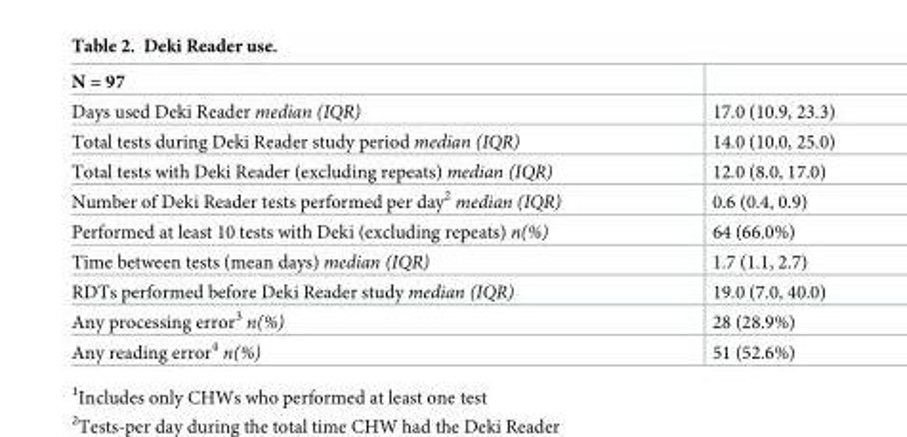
<table><thead><tr><td>N = 97</td><td></td></tr></thead><tbody><tr><td>Days used Deki Reader median (IQR)</td><td>17.0 (10.9, 23.3)</td></tr><tr><td>Total tests during Deki Reader study period median (IQR)</td><td>14.0 (10.0, 25.0)</td></tr><tr><td>Total tests with Deki Reader (excluding repeats) median (IQR)</td><td>12.0 (8.0, 17.0)</td></tr><tr><td>Number of Deki Reader tests performed per day<sup>2</sup> median (IQR)</td><td>0.6 (0.4, 0.9)</td></tr><tr><td>Performed at least 10 tests with Deki (excluding repeats) n(%)</td><td>64 (66.0%)</td></tr><tr><td>Time between tests (mean days) median (IQR)</td><td>1.7 (1.1, 2.7)</td></tr><tr><td>RDTs performed before Deki Reader study median (IQR)</td><td>19.0 (7.0, 40.0)</td></tr><tr><td>Any processing error<sup>3</sup> n(%)</td><td>28 (28.9%)</td></tr><tr><td>Any reading error<sup>4</sup> n(%)</td><td>51 (52.6%)</td></tr></tbody></table>